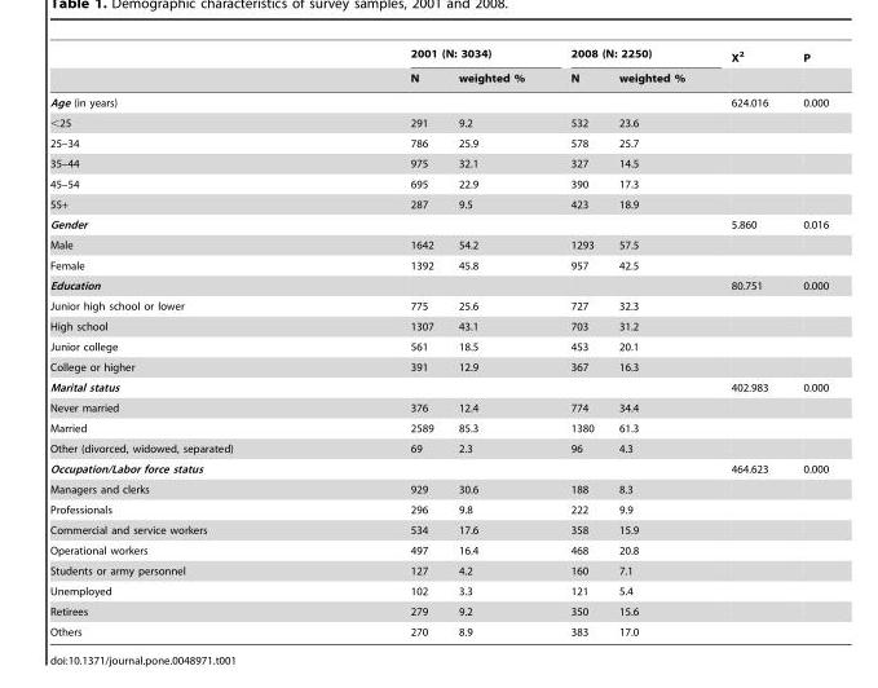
<table><thead><tr><td rowspan="2"></td><td colspan="2">2001 (N: 3034)</td><td colspan="2">2008 (N: 2250)</td><td rowspan="2">X<sup>2</sup></td><td rowspan="2">P</td></tr><tr><td>N</td><td>weighted %</td><td>N</td><td>weighted %</td></tr></thead><tbody><tr><td>Age (in years)</td><td></td><td></td><td></td><td></td><td>624.016</td><td>0.000</td></tr><tr><td>&lt;25</td><td>291</td><td>9.2</td><td>532</td><td>23.6</td><td></td><td></td></tr><tr><td>25–34</td><td>786</td><td>25.9</td><td>578</td><td>25.7</td><td></td><td></td></tr><tr><td>35–44</td><td>975</td><td>32.1</td><td>327</td><td>14.5</td><td></td><td></td></tr><tr><td>45–54</td><td>695</td><td>22.9</td><td>390</td><td>17.3</td><td></td><td></td></tr><tr><td>55+</td><td>287</td><td>9.5</td><td>423</td><td>18.9</td><td></td><td></td></tr><tr><td>Gender</td><td></td><td></td><td></td><td></td><td>5.860</td><td>0.016</td></tr><tr><td>Male</td><td>1642</td><td>54.2</td><td>1293</td><td>57.5</td><td></td><td></td></tr><tr><td>Female</td><td>1392</td><td>45.8</td><td>957</td><td>42.5</td><td></td><td></td></tr><tr><td>Education</td><td></td><td></td><td></td><td></td><td>80.751</td><td>0.000</td></tr><tr><td>Junior high school or lower</td><td>775</td><td>25.6</td><td>727</td><td>32.3</td><td></td><td></td></tr><tr><td>High school</td><td>1307</td><td>43.1</td><td>703</td><td>31.2</td><td></td><td></td></tr><tr><td>Junior college</td><td>561</td><td>18.5</td><td>453</td><td>20.1</td><td></td><td></td></tr><tr><td>College or higher</td><td>391</td><td>12.9</td><td>367</td><td>16.3</td><td></td><td></td></tr><tr><td>Marital status</td><td></td><td></td><td></td><td></td><td>402.983</td><td>0.000</td></tr><tr><td>Never married</td><td>376</td><td>12.4</td><td>774</td><td>34.4</td><td></td><td></td></tr><tr><td>Married</td><td>2589</td><td>85.3</td><td>1380</td><td>61.3</td><td></td><td></td></tr><tr><td>Other (divorced, widowed, separated)</td><td>69</td><td>2.3</td><td>96</td><td>4.3</td><td></td><td></td></tr><tr><td>Occupation/Labor force status</td><td></td><td></td><td></td><td></td><td>464.623</td><td>0.000</td></tr><tr><td>Managers and clerks</td><td>929</td><td>30.6</td><td>188</td><td>8.3</td><td></td><td></td></tr><tr><td>Professionals</td><td>296</td><td>9.8</td><td>222</td><td>9.9</td><td></td><td></td></tr><tr><td>Commercial and service workers</td><td>534</td><td>17.6</td><td>358</td><td>15.9</td><td></td><td></td></tr><tr><td>Operational workers</td><td>497</td><td>16.4</td><td>468</td><td>20.8</td><td></td><td></td></tr><tr><td>Students or army personnel</td><td>127</td><td>4.2</td><td>160</td><td>7.1</td><td></td><td></td></tr><tr><td>Unemployed</td><td>102</td><td>3.3</td><td>121</td><td>5.4</td><td></td><td></td></tr><tr><td>Retirees</td><td>279</td><td>9.2</td><td>350</td><td>15.6</td><td></td><td></td></tr><tr><td>Others</td><td>270</td><td>8.9</td><td>383</td><td>17.0</td><td></td><td></td></tr></tbody></table>